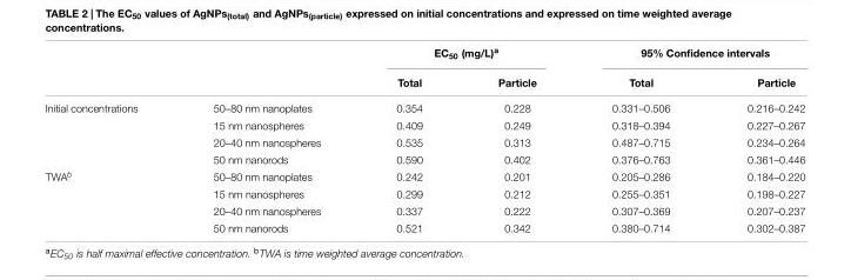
<table><thead><tr><td rowspan="2"></td><td rowspan="2"></td><td colspan="2">EC<sub>50</sub> (mg/L)<sup>a</sup></td><td colspan="2">95% Confidence intervals</td></tr><tr><td>Total</td><td>Particle</td><td>Total</td><td>Particle</td></tr></thead><tbody><tr><td rowspan="4">Initial concentrations</td><td>50–80 nm nanoplates</td><td>0.354</td><td>0.228</td><td>0.331–0.506</td><td>0.216–0.242</td></tr><tr><td>15 nm nanospheres</td><td>0.409</td><td>0.249</td><td>0.318–0.394</td><td>0.227–0.267</td></tr><tr><td>20–40 nm nanospheres</td><td>0.535</td><td>0.313</td><td>0.487–0.715</td><td>0.234–0.264</td></tr><tr><td>50 nm nanorods</td><td>0.590</td><td>0.402</td><td>0.376–0.763</td><td>0.361–0.446</td></tr><tr><td rowspan="4">TWA<sup>b</sup></td><td>50–80 nm nanoplates</td><td>0.242</td><td>0.201</td><td>0.205–0.286</td><td>0.184–0.220</td></tr><tr><td>15 nm nanospheres</td><td>0.299</td><td>0.212</td><td>0.255–0.351</td><td>0.198–0.227</td></tr><tr><td>20–40 nm nanospheres</td><td>0.337</td><td>0.222</td><td>0.307–0.369</td><td>0.207–0.237</td></tr><tr><td>50 nm nanorods</td><td>0.521</td><td>0.342</td><td>0.380–0.714</td><td>0.302–0.387</td></tr></tbody></table>